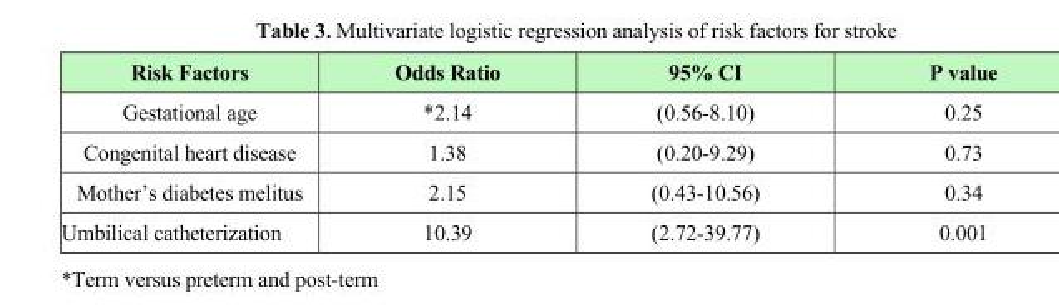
<table><thead><tr><td>Risk Factors</td><td>Odds Ratio</td><td>95% CI</td><td>P value</td></tr></thead><tbody><tr><td>Gestational age</td><td>*2.14</td><td>(0.56-8.10)</td><td>0.25</td></tr><tr><td>Congenital heart disease</td><td>1.38</td><td>(0.20-9.29)</td><td>0.73</td></tr><tr><td>Mother’s diabetes melitus</td><td>2.15</td><td>(0.43-10.56)</td><td>0.34</td></tr><tr><td>Umbilical catheterization</td><td>10.39</td><td>(2.72-39.77)</td><td>0.001</td></tr></tbody></table>